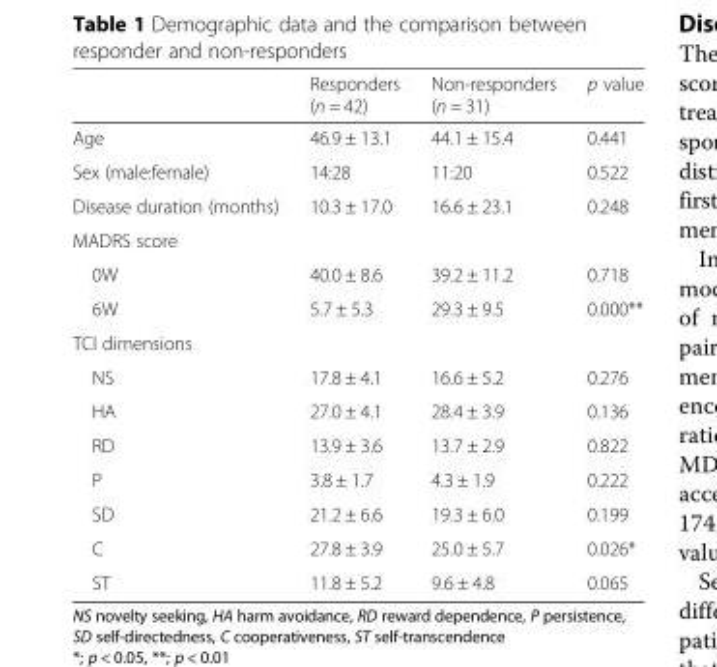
<table><thead><tr><td></td><td>Responders (n = 42)</td><td>Non-responders (n = 31)</td><td>p value</td></tr></thead><tbody><tr><td>Age</td><td>46.9 ± 13.1</td><td>44.1 ± 15.4</td><td>0.441</td></tr><tr><td>Sex (male:female)</td><td>14:28</td><td>11:20</td><td>0.522</td></tr><tr><td>Disease duration (months)</td><td>10.3 ± 17.0</td><td>16.6 ± 23.1</td><td>0.248</td></tr><tr><td colspan="4">MADRS score</td></tr><tr><td>0W</td><td>40.0 ± 8.6</td><td>39.2 ± 11.2</td><td>0.718</td></tr><tr><td>6W</td><td>5.7 ± 5.3</td><td>29.3 ± 9.5</td><td>0.000**</td></tr><tr><td colspan="4">TCI dimensions</td></tr><tr><td>NS</td><td>17.8 ± 4.1</td><td>16.6 ± 5.2</td><td>0.276</td></tr><tr><td>HA</td><td>27.0 ± 4.1</td><td>28.4 ± 3.9</td><td>0.136</td></tr><tr><td>RD</td><td>13.9 ± 3.6</td><td>13.7 ± 2.9</td><td>0.822</td></tr><tr><td>P</td><td>3.8 ± 1.7</td><td>4.3 ± 1.9</td><td>0.222</td></tr><tr><td>SD</td><td>21.2 ± 6.6</td><td>19.3 ± 6.0</td><td>0.199</td></tr><tr><td>C</td><td>27.8 ± 3.9</td><td>25.0 ± 5.7</td><td>0.026*</td></tr><tr><td>ST</td><td>11.8 ± 5.2</td><td>9.6 ± 4.8</td><td>0.065</td></tr></tbody></table>